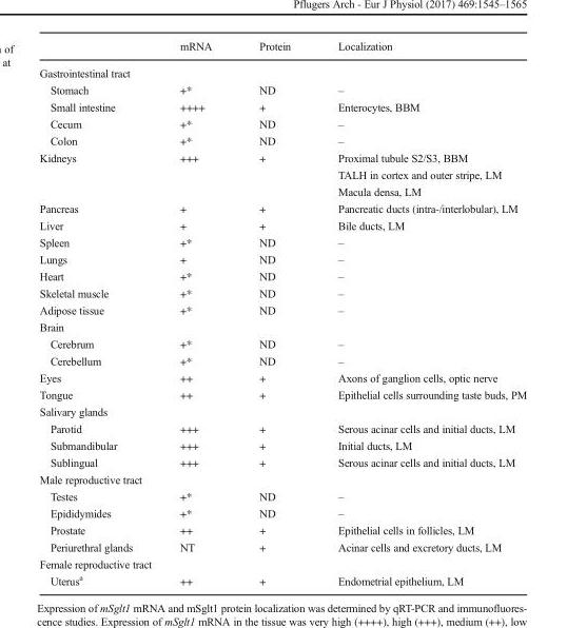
<table><thead><tr><td></td><td>mRNA</td><td>Protein</td><td>Localization</td></tr></thead><tbody><tr><td colspan="4">Gastrointestinal tract</td></tr><tr><td>Stomach</td><td>+*</td><td>ND</td><td>–</td></tr><tr><td>Small intestine</td><td>++++</td><td>+</td><td>Enterocytes, BBM</td></tr><tr><td>Cecum</td><td>+*</td><td>ND</td><td>–</td></tr><tr><td>Colon</td><td>+*</td><td>ND</td><td>–</td></tr><tr><td rowspan="3">Kidneys</td><td rowspan="3">+++</td><td rowspan="3">+</td><td>Proximal tubule S2/S3, BBM</td></tr><tr><td>TALH in cortex and outer stripe, LM</td></tr><tr><td>Macula densa, LM</td></tr><tr><td>Pancreas</td><td>+</td><td>+</td><td>Pancreatic ducts (intra-/interlobular), LM</td></tr><tr><td>Liver</td><td>+</td><td>+</td><td>Bile ducts, LM</td></tr><tr><td>Spleen</td><td>+*</td><td>ND</td><td>–</td></tr><tr><td>Lungs</td><td>+</td><td>ND</td><td>–</td></tr><tr><td>Heart</td><td>+*</td><td>ND</td><td>–</td></tr><tr><td>Skeletal muscle</td><td>+*</td><td>ND</td><td>–</td></tr><tr><td>Adipose tissue</td><td>+*</td><td>ND</td><td>–</td></tr><tr><td colspan="4">Brain</td></tr><tr><td>Cerebrum</td><td>+*</td><td>ND</td><td>–</td></tr><tr><td>Cerebellum</td><td>+*</td><td>ND</td><td>–</td></tr><tr><td>Eyes</td><td>++</td><td>+</td><td>Axons of ganglion cells, optic nerve</td></tr><tr><td>Tongue</td><td>++</td><td>+</td><td>Epithelial cells surrounding taste buds, PM</td></tr><tr><td colspan="4">Salivary glands</td></tr><tr><td>Parotid</td><td>+++</td><td>+</td><td>Serous acinar cells and initial ducts, LM</td></tr><tr><td>Submandibular</td><td>+++</td><td>+</td><td>Initial ducts, LM</td></tr><tr><td>Sublingual</td><td>+++</td><td>+</td><td>Serous acinar cells and initial ducts, LM</td></tr><tr><td colspan="4">Male reproductive tract</td></tr><tr><td>Testes</td><td>+*</td><td>ND</td><td>–</td></tr><tr><td>Epididymides</td><td>+*</td><td>ND</td><td>–</td></tr><tr><td>Prostate</td><td>++</td><td>+</td><td>Epithelial cells in follicles, LM</td></tr><tr><td>Periurethral glands</td><td>NT</td><td>+</td><td>Acinar cells and excretory ducts, LM</td></tr><tr><td colspan="4">Female reproductive tract</td></tr><tr><td>Uterus<sup>a</sup></td><td>++</td><td>+</td><td>Endometrial epithelium, LM</td></tr></tbody></table>